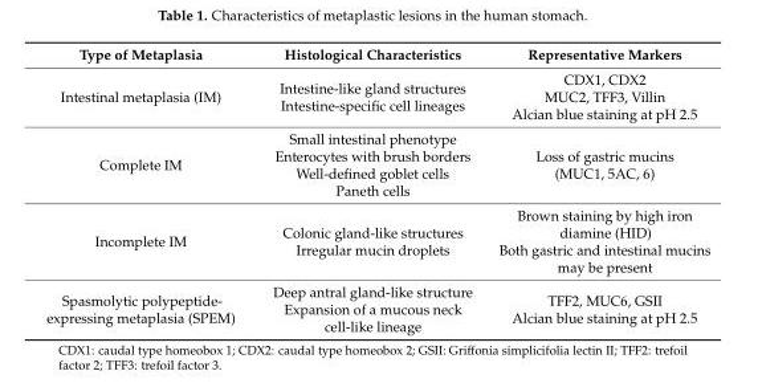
<table><thead><tr><td>Type of Metaplasia</td><td>Histological Characteristics</td><td>Representative Markers</td></tr></thead><tbody><tr><td>Intestinal metaplasia (IM)</td><td>Intestine-like gland structures Intestine-specific cell lineages</td><td>CDX1, CDX2 MUC2, TFF3, Villin Alcian blue staining at pH 2.5</td></tr><tr><td>Complete IM</td><td>Small intestinal phenotype Enterocytes with brush borders Well-defined goblet cells Paneth cells</td><td>Loss of gastric mucins (MUC1, 5AC, 6)</td></tr><tr><td>Incomplete IM</td><td>Colonic gland-like structures Irregular mucin droplets</td><td>Brown staining by high iron diamine (HID) Both gastric and intestinal mucins may be present</td></tr><tr><td>Spasmolytic polypeptide- expressing metaplasia (SPEM)</td><td>Deep antral gland-like structure Expansion of a mucous neck cell-like lineage</td><td>TFF2, MUC6, GSII Alcian blue staining at pH 2.5</td></tr></tbody></table>